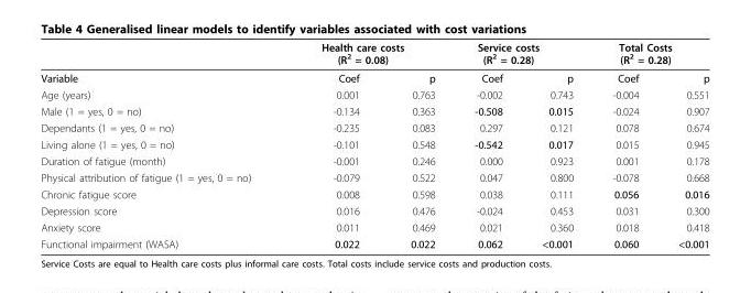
<table><thead><tr><td rowspan="2">Variable</td><td colspan="2">Health care costs (R<sup>2</sup> = 0.08)</td><td colspan="2">Service costs (R<sup>2</sup> = 0.28)</td><td colspan="2">Total Costs (R<sup>2</sup> = 0.28)</td></tr><tr><td>Coef</td><td>p</td><td>Coef</td><td>p</td><td>Coef</td><td>p</td></tr></thead><tbody><tr><td>Age (years)</td><td>0.001</td><td>0.763</td><td>-0.002</td><td>0.743</td><td>-0.004</td><td>0.551</td></tr><tr><td>Male (1 = yes, 0 = no)</td><td>-0.134</td><td>0.363</td><td>-0.508</td><td>0.015</td><td>-0.024</td><td>0.907</td></tr><tr><td>Dependants (1 = yes, 0 = no)</td><td>-0.235</td><td>0.083</td><td>0.297</td><td>0.121</td><td>0.078</td><td>0.674</td></tr><tr><td>Living alone (1 = yes, 0 = no)</td><td>-0.101</td><td>0.548</td><td>-0.542</td><td>0.017</td><td>0.015</td><td>0.945</td></tr><tr><td>Duration of fatigue (month)</td><td>-0.001</td><td>0.246</td><td>0.000</td><td>0.923</td><td>0.001</td><td>0.178</td></tr><tr><td>Physical attribution of fatigue (1 = yes, 0 = no)</td><td>-0.079</td><td>0.522</td><td>0.047</td><td>0.800</td><td>-0.078</td><td>0.668</td></tr><tr><td>Chronic fatigue score</td><td>0.008</td><td>0.598</td><td>0.038</td><td>0.111</td><td>0.056</td><td>0.016</td></tr><tr><td>Depression score</td><td>0.016</td><td>0.476</td><td>-0.024</td><td>0.453</td><td>0.031</td><td>0.300</td></tr><tr><td>Anxiety score</td><td>0.011</td><td>0.469</td><td>0.021</td><td>0.360</td><td>0.018</td><td>0.418</td></tr><tr><td>Functional impairment (WASA)</td><td>0.022</td><td>0.022</td><td>0.062</td><td>&lt;0.001</td><td>0.060</td><td>&lt;0.001</td></tr></tbody></table>